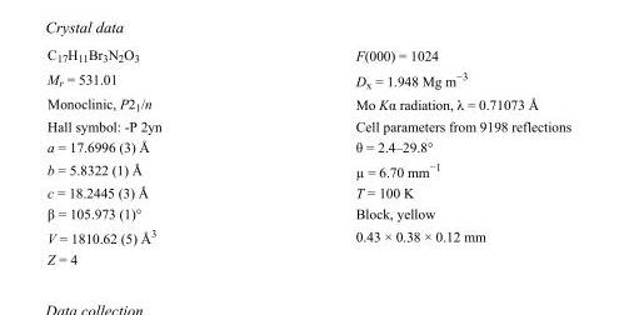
<table><tbody><tr><td>C<sub>17</sub>H<sub>11</sub>Br<sub>3</sub>N<sub>2</sub>O<sub>3</sub></td><td>F(000) = 1024</td></tr><tr><td>M<sub>r</sub> = 531.01</td><td>D<sub>x</sub> = 1.948 Mg m<sup>−3</sup></td></tr><tr><td>Monoclinic, P2<sub>1</sub>/n</td><td>Mo Kα radiation, λ = 0.71073 Å</td></tr><tr><td>Hall symbol: -P 2yn</td><td>Cell parameters from 9198 reflections</td></tr><tr><td>a = 17.6996 (3) Å</td><td>θ = 2.4–29.8°</td></tr><tr><td>b = 5.8322 (1) Å</td><td>µ = 6.70 mm<sup>−1</sup></td></tr><tr><td>c = 18.2445 (3) Å</td><td>T = 100 K</td></tr><tr><td>β = 105.973 (1)°</td><td>Block, yellow</td></tr><tr><td>V = 1810.62 (5) Å<sup>3</sup></td><td>0.43 × 0.38 × 0.12 mm</td></tr><tr><td>Z = 4</td><td></td></tr></tbody></table>